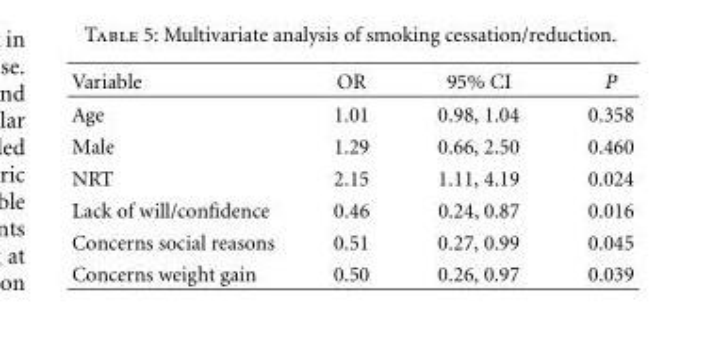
<table><thead><tr><td>Variable</td><td>OR</td><td>95% CI</td><td>P</td></tr></thead><tbody><tr><td>Age</td><td>1.01</td><td>0.98, 1.04</td><td>0.358</td></tr><tr><td>Male</td><td>1.29</td><td>0.66, 2.50</td><td>0.460</td></tr><tr><td>NRT</td><td>2.15</td><td>1.11, 4.19</td><td>0.024</td></tr><tr><td>Lack of will/confidence</td><td>0.46</td><td>0.24, 0.87</td><td>0.016</td></tr><tr><td>Concerns social reasons</td><td>0.51</td><td>0.27, 0.99</td><td>0.045</td></tr><tr><td>Concerns weight gain</td><td>0.50</td><td>0.26, 0.97</td><td>0.039</td></tr></tbody></table>